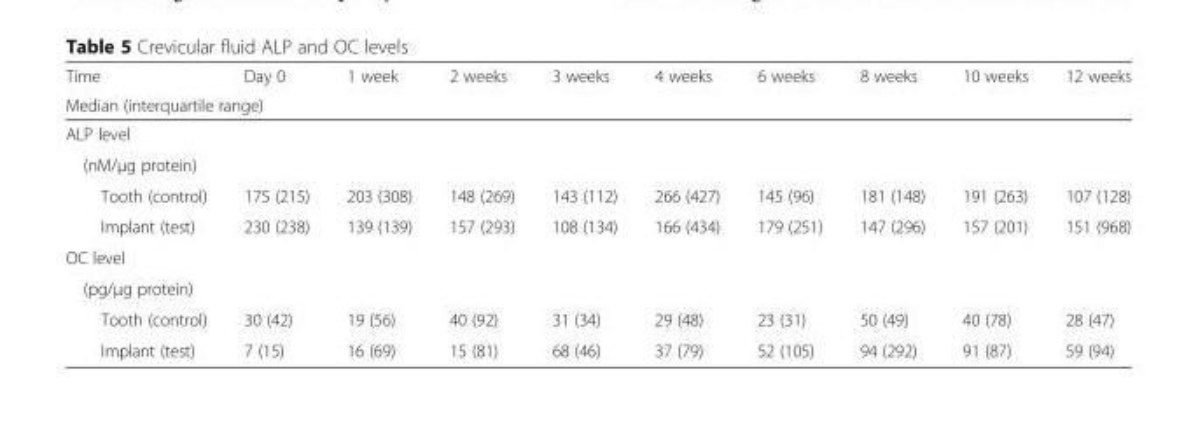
<table><thead><tr><td>Time</td><td>Day 0</td><td>1 week</td><td>2 weeks</td><td>3 weeks</td><td>4 weeks</td><td>6 weeks</td><td>8 weeks</td><td>10 weeks</td><td>12 weeks</td></tr><tr><td colspan="10">Median (interquartile range)</td></tr></thead><tbody><tr><td colspan="10">ALP level</td></tr><tr><td colspan="10">(nM/μg protein)</td></tr><tr><td>Tooth (control)</td><td>175 (215)</td><td>203 (308)</td><td>148 (269)</td><td>143 (112)</td><td>266 (427)</td><td>145 (96)</td><td>181 (148)</td><td>191 (263)</td><td>107 (128)</td></tr><tr><td>Implant (test)</td><td>230 (238)</td><td>139 (139)</td><td>157 (293)</td><td>108 (134)</td><td>166 (434)</td><td>179 (251)</td><td>147 (296)</td><td>157 (201)</td><td>151 (968)</td></tr><tr><td colspan="10">OC level</td></tr><tr><td colspan="10">(pg/μg protein)</td></tr><tr><td>Tooth (control)</td><td>30 (42)</td><td>19 (56)</td><td>40 (92)</td><td>31 (34)</td><td>29 (48)</td><td>23 (31)</td><td>50 (49)</td><td>40 (78)</td><td>28 (47)</td></tr><tr><td>Implant (test)</td><td>7 (15)</td><td>16 (69)</td><td>15 (81)</td><td>68 (46)</td><td>37 (79)</td><td>52 (105)</td><td>94 (292)</td><td>91 (87)</td><td>59 (94)</td></tr></tbody></table>